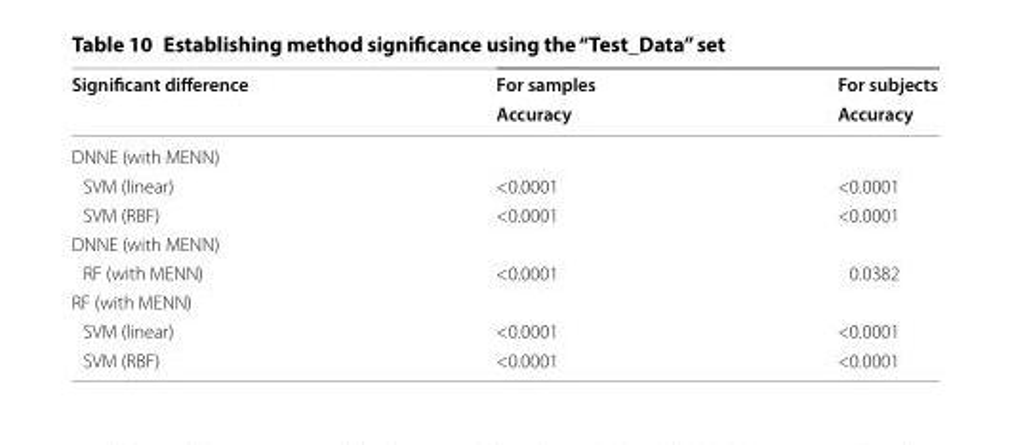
<table><thead><tr><td rowspan="2">Significant difference</td><td rowspan="2">For samples Accuracy</td><td rowspan="2">For subjects Accuracy</td></tr><tr></tr></thead><tbody><tr><td colspan="3">DNNE (with MENN)</td></tr><tr><td>SVM (linear)</td><td>&lt;0.0001</td><td>&lt;0.0001</td></tr><tr><td>SVM (RBF)</td><td>&lt;0.0001</td><td>&lt;0.0001</td></tr><tr><td colspan="3">DNNE (with MENN)</td></tr><tr><td>RF (with MENN)</td><td>&lt;0.0001</td><td>0.0382</td></tr><tr><td colspan="3">RF (with MENN)</td></tr><tr><td>SVM (linear)</td><td>&lt;0.0001</td><td>&lt;0.0001</td></tr><tr><td>SVM (RBF)</td><td>&lt;0.0001</td><td>&lt;0.0001</td></tr></tbody></table>